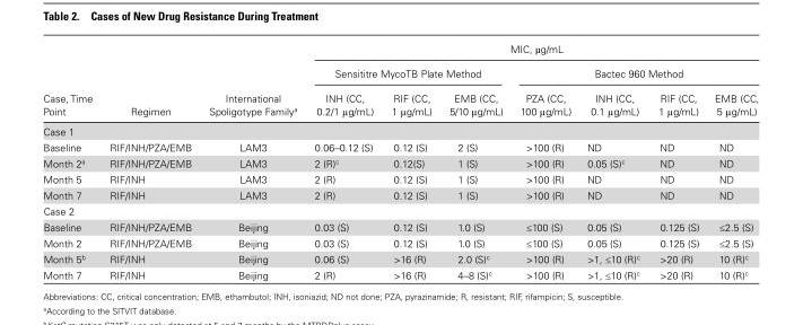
<table><thead><tr><td rowspan="3">Case, Time Point</td><td rowspan="3">Regimen</td><td rowspan="3">International Spoligotype Family<sup>a</sup></td><td colspan="7">MIC, µg/mL</td></tr><tr><td colspan="3">Sensititre MycoTB Plate Method</td><td colspan="4">Bactec 960 Method</td></tr><tr><td>INH (CC, 0.2/1 μg/mL)</td><td>RIF (CC, 1 μg/mL)</td><td>EMB (CC, 5/10 μg/mL)</td><td>PZA (CC, 100 μg/mL)</td><td>INH (CC, 0.1 μg/mL)</td><td>RIF (CC, 1 μg/mL)</td><td>EMB (CC, 5 μg/mL)</td></tr></thead><tbody><tr><td colspan="10">Case 1</td></tr><tr><td>Baseline</td><td>RIF/INH/PZA/EMB</td><td>LAM3</td><td>0.06–0.12 (S)</td><td>0.12 (S)</td><td>2 (S)</td><td>&gt;100 (R)</td><td>ND</td><td>ND</td><td>ND</td></tr><tr><td>Month 2<sup>a</sup></td><td>RIF/INH/PZA/EMB</td><td>LAM3</td><td>2 (R)<sup>c</sup></td><td>0.12(S)</td><td>1 (S)</td><td>&gt;100 (R)</td><td>0.05 (S)<sup>c</sup></td><td>ND</td><td>ND</td></tr><tr><td>Month 5</td><td>RIF/INH</td><td>LAM3</td><td>2 (R)</td><td>0.12 (S)</td><td>1 (S)</td><td>&gt;100 (R)</td><td>ND</td><td>ND</td><td>ND</td></tr><tr><td>Month 7</td><td>RIF/INH</td><td>LAM3</td><td>2 (R)</td><td>0.12 (S)</td><td>1 (S)</td><td>&gt;100 (R)</td><td>ND</td><td>ND</td><td>ND</td></tr><tr><td colspan="10">Case 2</td></tr><tr><td>Baseline</td><td>RIF/INH/PZA/EMB</td><td>Beijing</td><td>0.03 (S)</td><td>0.12 (S)</td><td>1.0 (S)</td><td>≤100 (S)</td><td>0.05 (S)</td><td>0.125 (S)</td><td>≤2.5 (S)</td></tr><tr><td>Month 2</td><td>RIF/INH/PZA/EMB</td><td>Beijing</td><td>0.03 (S)</td><td>0.12 (S)</td><td>1.0 (S)</td><td>≤100 (S)</td><td>0.05 (S)</td><td>0.125 (S)</td><td>≤2.5 (S)</td></tr><tr><td>Month 5<sup>b</sup></td><td>RIF/INH</td><td>Beijing</td><td>0.06 (S)</td><td>&gt;16 (R)</td><td>2.0 (S)<sup>c</sup></td><td>&gt;100 (R)</td><td>&gt;1, ≤10 (R)<sup>c</sup></td><td>&gt;20 (R)</td><td>10 (R)<sup>c</sup></td></tr><tr><td>Month 7</td><td>RIF/INH</td><td>Beijing</td><td>2 (R)</td><td>&gt;16 (R)</td><td>4–8 (S)<sup>c</sup></td><td>&gt;100 (R)</td><td>&gt;1, ≤10 (R)<sup>c</sup></td><td>&gt;20 (R)</td><td>10 (R)<sup>c</sup></td></tr></tbody></table>